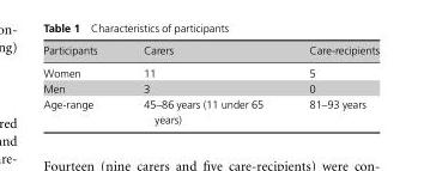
<table><thead><tr><td>Participants</td><td>Carers</td><td>Care-recipients</td></tr></thead><tbody><tr><td>Women</td><td>11</td><td>5</td></tr><tr><td>Men</td><td>3</td><td>0</td></tr><tr><td>Age-range</td><td>45–86 years (11 under 65 years)</td><td>81–93 years</td></tr></tbody></table>